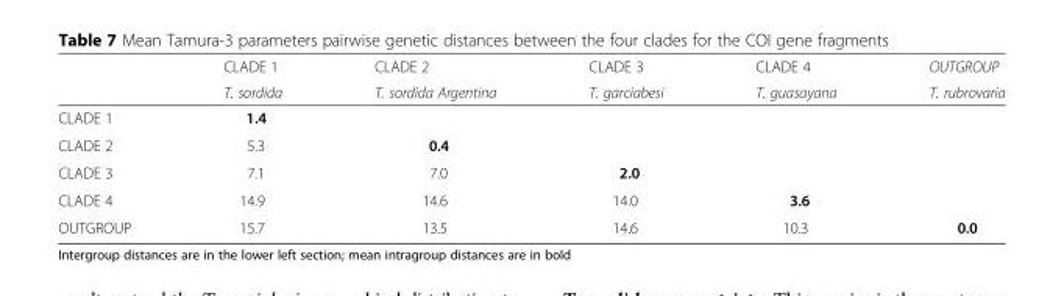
<table><thead><tr><td rowspan="2"></td><td rowspan="2">CLADE 1 T. sordida</td><td rowspan="2">CLADE 2 T. sordida Argentina</td><td rowspan="2">CLADE 3 T. garciabesi</td><td rowspan="2">CLADE 4 T. guasayana</td><td rowspan="2">OUTGROUP T. rubrovaria</td></tr><tr></tr></thead><tbody><tr><td>CLADE 1</td><td>1.4</td><td></td><td></td><td></td><td></td></tr><tr><td>CLADE 2</td><td>5.3</td><td>0.4</td><td></td><td></td><td></td></tr><tr><td>CLADE 3</td><td>7.1</td><td>7.0</td><td>2.0</td><td></td><td></td></tr><tr><td>CLADE 4</td><td>14.9</td><td>14.6</td><td>14.0</td><td>3.6</td><td></td></tr><tr><td>OUTGROUP</td><td>15.7</td><td>13.5</td><td>14.6</td><td>10.3</td><td>0.0</td></tr></tbody></table>